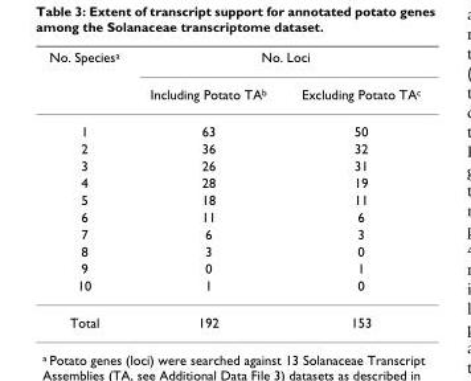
<table><thead><tr><td rowspan="2">No. Species<sup>a</sup></td><td colspan="2">No. Loci</td></tr><tr><td>Including Potato TA<sup>b</sup></td><td>Excluding Potato TA<sup>c</sup></td></tr></thead><tbody><tr><td>1</td><td>63</td><td>50</td></tr><tr><td>2</td><td>36</td><td>32</td></tr><tr><td>3</td><td>26</td><td>31</td></tr><tr><td>4</td><td>28</td><td>19</td></tr><tr><td>5</td><td>18</td><td>11</td></tr><tr><td>6</td><td>11</td><td>6</td></tr><tr><td>7</td><td>6</td><td>3</td></tr><tr><td>8</td><td>3</td><td>0</td></tr><tr><td>9</td><td>0</td><td>1</td></tr><tr><td>10</td><td>1</td><td>0</td></tr><tr><td>Total</td><td>192</td><td>153</td></tr></tbody></table>